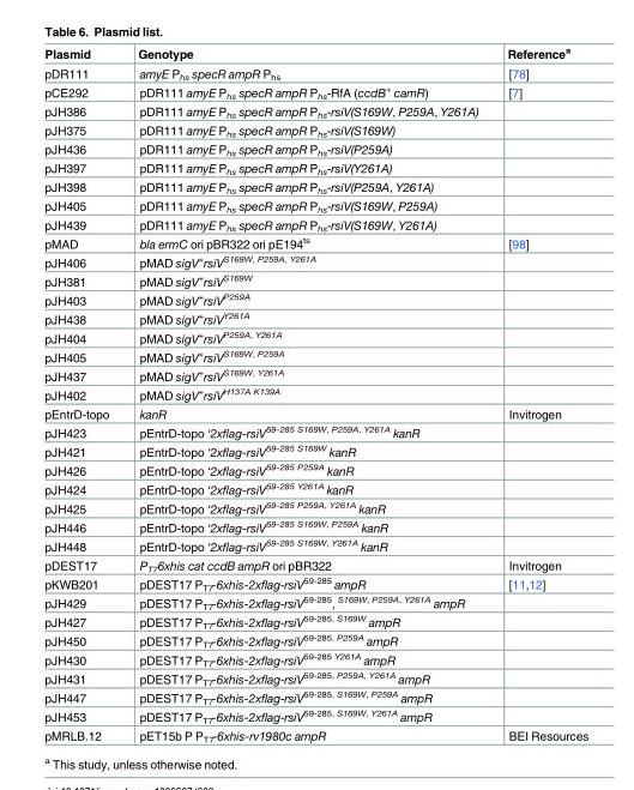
<table><thead><tr><td>Plasmid</td><td>Genotype</td><td>Reference<sup>a</sup></td></tr></thead><tbody><tr><td>pDR111</td><td>amyE P<sub>hs</sub> specR ampR P<sub>hs</sub></td><td>[78]</td></tr><tr><td>pCE292</td><td>pDR111 amyE P<sub>hs</sub> specR ampR P<sub>hs</sub>-RfA (ccdB<sup>+</sup> camR)</td><td>[7]</td></tr><tr><td>pJH386</td><td>pDR111 amyE P<sub>hs</sub> specR ampR P<sub>hs</sub>-rsiV(S169W, P259A, Y261A)</td><td></td></tr><tr><td>pJH375</td><td>pDR111 amyE P<sub>hs</sub> specR ampR P<sub>hs</sub>-rsiV(S169W)</td><td></td></tr><tr><td>pJH436</td><td>pDR111 amyE P<sub>hs</sub> specR ampR P<sub>hs</sub>-rsiV(P259A)</td><td></td></tr><tr><td>pJH397</td><td>pDR111 amyE P<sub>hs</sub> specR ampR P<sub>hs</sub>-rsiV(Y261A)</td><td></td></tr><tr><td>pJH398</td><td>pDR111 amyE P<sub>hs</sub> specR ampR P<sub>hs</sub>-rsiV(P259A, Y261A)</td><td></td></tr><tr><td>pJH405</td><td>pDR111 amyE P<sub>hs</sub> specR ampR P<sub>hs</sub>-rsiV(S169W, P259A)</td><td></td></tr><tr><td>pJH439</td><td>pDR111 amyE P<sub>hs</sub> specR ampR P<sub>hs</sub>-rsiV(S169W, Y261A)</td><td></td></tr><tr><td>pMAD</td><td>bla ermC ori pBR322 ori pE194<sup>ts</sup></td><td>[98]</td></tr><tr><td>pJH406</td><td>pMAD sigV<sup>+</sup>rsiV<sup>S169W, P259A, Y261A</sup></td><td></td></tr><tr><td>pJH381</td><td>pMAD sigV<sup>+</sup>rsiV<sup>S169W</sup></td><td></td></tr><tr><td>pJH403</td><td>pMAD sigV<sup>+</sup>rsiV<sup>P259A</sup></td><td></td></tr><tr><td>pJH438</td><td>pMAD sigV<sup>+</sup>rsiV<sup>Y261A</sup></td><td></td></tr><tr><td>pJH404</td><td>pMAD sigV<sup>+</sup>rsiV<sup>P259A, Y261A</sup></td><td></td></tr><tr><td>pJH405</td><td>pMAD sigV<sup>+</sup>rsiV<sup>S169W, P259A</sup></td><td></td></tr><tr><td>pJH437</td><td>pMAD sigV<sup>+</sup>rsiV<sup>S169W, Y261A</sup></td><td></td></tr><tr><td>pJH402</td><td>pMAD sigV<sup>+</sup>rsiV<sup>H137A K139A</sup></td><td></td></tr><tr><td>pEntrD-topo</td><td>kanR</td><td>Invitrogen</td></tr><tr><td>pJH423</td><td>pEntrD-topo ‘2xflag-rsiV<sup>59-285 S169W, P259A, Y261A</sup> kanR</td><td></td></tr><tr><td>pJH421</td><td>pEntrD-topo ‘2xflag-rsiV<sup>59-285 S169W</sup> kanR</td><td></td></tr><tr><td>pJH426</td><td>pEntrD-topo ‘2xflag-rsiV<sup>59-285 P259A</sup> kanR</td><td></td></tr><tr><td>pJH424</td><td>pEntrD-topo ‘2xflag-rsiV<sup>59-285 Y261A</sup> kanR</td><td></td></tr><tr><td>pJH425</td><td>pEntrD-topo ‘2xflag-rsiV<sup>59-285 P259A, Y261A</sup> kanR</td><td></td></tr><tr><td>pJH446</td><td>pEntrD-topo ‘2xflag-rsiV<sup>59-285 S169W, P259A</sup> kanR</td><td></td></tr><tr><td>pJH448</td><td>pEntrD-topo ‘2xflag-rsiV<sup>59-285 S169W, Y261A</sup> kanR</td><td></td></tr><tr><td>pDEST17</td><td>P<sub>T7</sub>6xhis cat ccdB ampR ori pBR322</td><td>Invitrogen</td></tr><tr><td>pKWB201</td><td>pDEST17 P<sub>T7</sub>-6xhis-2xflag-rsiV<sup>59-285</sup> ampR</td><td>[11,12]</td></tr><tr><td>pJH429</td><td>pDEST17 P<sub>T7</sub>-6xhis-2xflag-rsiV<sup>59-285</sup>, <sup>S169W, P259A, Y261A</sup> ampR</td><td></td></tr><tr><td>pJH427</td><td>pDEST17 P<sub>T7</sub>-6xhis-2xflag-rsiV<sup>59-285, S169W</sup> ampR</td><td></td></tr><tr><td>pJH450</td><td>pDEST17 P<sub>T7</sub>-6xhis-2xflag-rsiV<sup>59-285, P259A</sup> ampR</td><td></td></tr><tr><td>pJH430</td><td>pDEST17 P<sub>T7</sub>-6xhis-2xflag-rsiV<sup>59-285 Y261A</sup> ampR</td><td></td></tr><tr><td>pJH431</td><td>pDEST17 P<sub>T7</sub>-6xhis-2xflag-rsiV<sup>59-285, P259A, Y261A</sup> ampR</td><td></td></tr><tr><td>pJH447</td><td>pDEST17 P<sub>T7</sub>-6xhis-2xflag-rsiV<sup>59-285, S169W, P259A</sup> ampR</td><td></td></tr><tr><td>pJH453</td><td>pDEST17 P<sub>T7</sub>-6xhis-2xflag-rsiV<sup>59-285, S169W, Y261A</sup> ampR</td><td></td></tr><tr><td>pMRLB.12</td><td>pET15b P P<sub>T7</sub>-6xhis-rv1980c ampR</td><td>BEI Resources</td></tr></tbody></table>